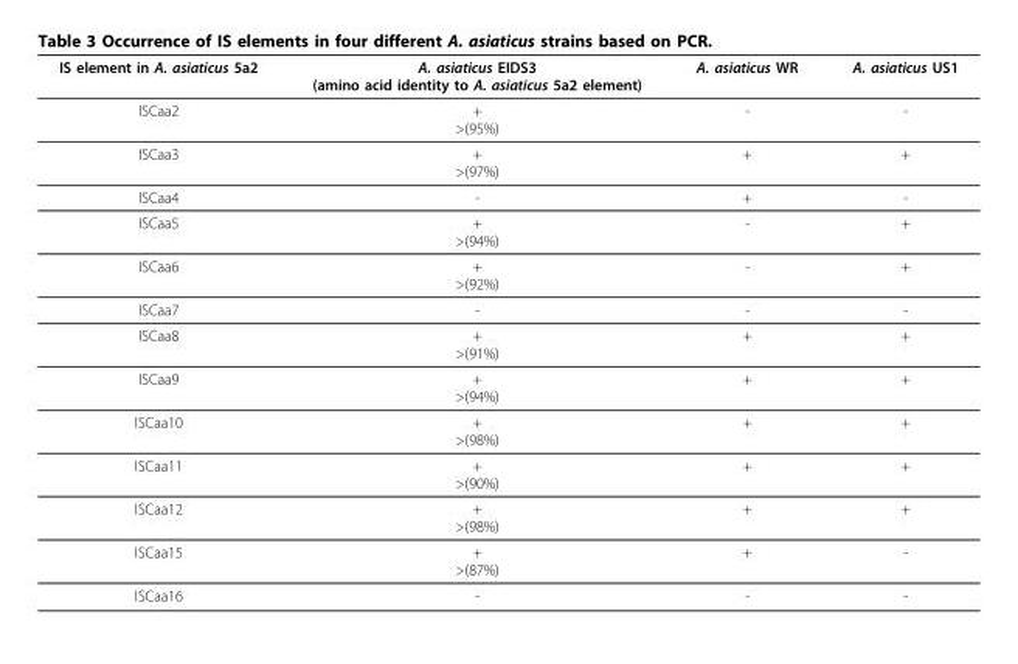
<table><thead><tr><td>IS element in A. asiaticus 5a2</td><td>A. asiaticus EIDS3 (amino acid identity to A. asiaticus 5a2 element)</td><td>A. asiaticus WR</td><td>A. asiaticus US1</td></tr></thead><tbody><tr><td>ISCaa2</td><td>+ &gt;(95%)</td><td>-</td><td>-</td></tr><tr><td>ISCaa3</td><td>+ &gt;(97%)</td><td>+</td><td>+</td></tr><tr><td>ISCaa4</td><td>-</td><td>+</td><td>-</td></tr><tr><td>ISCaa5</td><td>+ &gt;(94%)</td><td>-</td><td>+</td></tr><tr><td>ISCaa6</td><td>+ &gt;(92%)</td><td>-</td><td>+</td></tr><tr><td>ISCaa7</td><td>-</td><td>-</td><td>-</td></tr><tr><td>ISCaa8</td><td>+ &gt;(91%)</td><td>+</td><td>+</td></tr><tr><td>ISCaa9</td><td>+ &gt;(94%)</td><td>+</td><td>+</td></tr><tr><td>ISCaa10</td><td>+ &gt;(98%)</td><td>+</td><td>+</td></tr><tr><td>ISCaa11</td><td>+ &gt;(90%)</td><td>+</td><td>+</td></tr><tr><td>ISCaa12</td><td>+ &gt;(98%)</td><td>+</td><td>+</td></tr><tr><td>ISCaa15</td><td>+ &gt;(87%)</td><td>+</td><td>-</td></tr><tr><td>ISCaa16</td><td>-</td><td>-</td><td>-</td></tr></tbody></table>